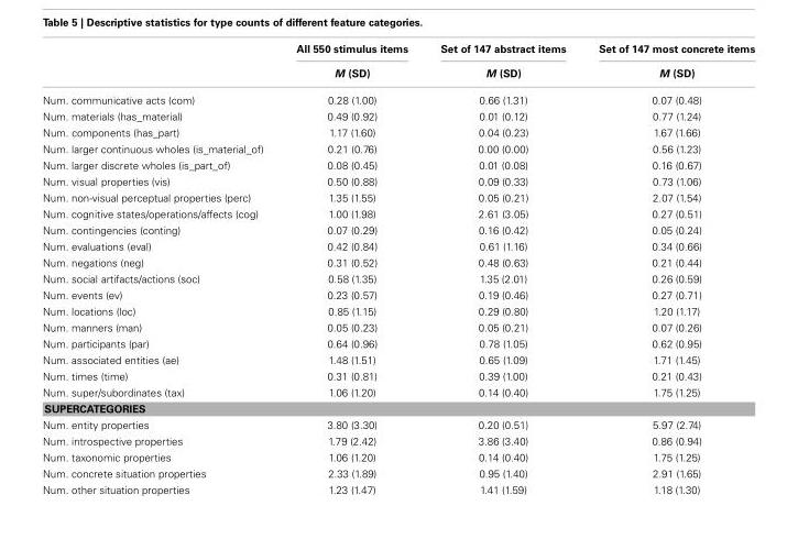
<table><thead><tr><td rowspan="2"></td><td rowspan="2">All 550 stimulus items M (SD)</td><td rowspan="2">Set of 147 abstract items M (SD)</td><td rowspan="2">Set of 147 most concrete items M (SD)</td></tr><tr></tr></thead><tbody><tr><td>Num. communicative acts (com)</td><td>0.28 (1.00)</td><td>0.66 (1.31)</td><td>0.07 (0.48)</td></tr><tr><td>Num. materials (has_material)</td><td>0.49 (0.92)</td><td>0.01 (0.12)</td><td>0.77 (1.24)</td></tr><tr><td>Num. components (has_part)</td><td>1.17 (1.60)</td><td>0.04 (0.23)</td><td>1.67 (1.66)</td></tr><tr><td>Num. larger continuous wholes (is_material_of)</td><td>0.21 (0.76)</td><td>0.00 (0.00)</td><td>0.56 (1.23)</td></tr><tr><td>Num. larger discrete wholes (is_part_of)</td><td>0.08 (0.45)</td><td>0.01 (0.08)</td><td>0.16 (0.67)</td></tr><tr><td>Num. visual properties (vis)</td><td>0.50 (0.88)</td><td>0.09 (0.33)</td><td>0.73 (1.06)</td></tr><tr><td>Num. non-visual perceptual properties (perc)</td><td>1.35 (1.55)</td><td>0.05 (0.21)</td><td>2.07 (1.54)</td></tr><tr><td>Num. cognitive states/operations/affects (cog)</td><td>1.00 (1.98)</td><td>2.61 (3.05)</td><td>0.27 (0.51)</td></tr><tr><td>Num. contingencies (conting)</td><td>0.07 (0.29)</td><td>0.16 (0.42)</td><td>0.05 (0.24)</td></tr><tr><td>Num. evaluations (eval)</td><td>0.42 (0.84)</td><td>0.61 (1.16)</td><td>0.34 (0.66)</td></tr><tr><td>Num. negations (neg)</td><td>0.31 (0.52)</td><td>0.48 (0.63)</td><td>0.21 (0.44)</td></tr><tr><td>Num. social artifacts/actions (soc)</td><td>0.58 (1.35)</td><td>1.35 (2.01)</td><td>0.26 (0.59)</td></tr><tr><td>Num. events (ev)</td><td>0.23 (0.57)</td><td>0.19 (0.46)</td><td>0.27 (0.71)</td></tr><tr><td>Num. locations (loc)</td><td>0.85 (1.15)</td><td>0.29 (0.80)</td><td>1.20 (1.17)</td></tr><tr><td>Num. manners (man)</td><td>0.05 (0.23)</td><td>0.05 (0.21)</td><td>0.07 (0.26)</td></tr><tr><td>Num. participants (par)</td><td>0.64 (0.96)</td><td>0.78 (1.05)</td><td>0.62 (0.95)</td></tr><tr><td>Num. associated entities (ae)</td><td>1.48 (1.51)</td><td>0.65 (1.09)</td><td>1.71 (1.45)</td></tr><tr><td>Num. times (time)</td><td>0.31 (0.81)</td><td>0.39 (1.00)</td><td>0.21 (0.43)</td></tr><tr><td>Num. super/subordinates (tax)</td><td>1.06 (1.20)</td><td>0.14 (0.40)</td><td>1.75 (1.25)</td></tr><tr><td colspan="4">SUPERCATEGORIES</td></tr><tr><td>Num. entity properties</td><td>3.80 (3.30)</td><td>0.20 (0.51)</td><td>5.97 (2.74)</td></tr><tr><td>Num. introspective properties</td><td>1.79 (2.42)</td><td>3.86 (3.40)</td><td>0.86 (0.94)</td></tr><tr><td>Num. taxonomic properties</td><td>1.06 (1.20)</td><td>0.14 (0.40)</td><td>1.75 (1.25)</td></tr><tr><td>Num. concrete situation properties</td><td>2.33 (1.89)</td><td>0.95 (1.40)</td><td>2.91 (1.65)</td></tr><tr><td>Num. other situation properties</td><td>1.23 (1.47)</td><td>1.41 (1.59)</td><td>1.18 (1.30)</td></tr></tbody></table>